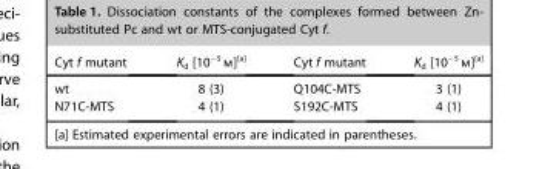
<table><thead><tr><td>Cyt f mutant</td><td>K<sub>d</sub> [10<sup>−5</sup>m][a]</td><td>Cyt f mutant</td><td>K<sub>d</sub> [10<sup>−5</sup>m][a]</td></tr></thead><tbody><tr><td>wt</td><td>8 (3)</td><td>Q104C-MTS</td><td>3 (1)</td></tr><tr><td>N71C-MTS</td><td>4 (1)</td><td>S192C-MTS</td><td>4 (1)</td></tr></tbody></table>